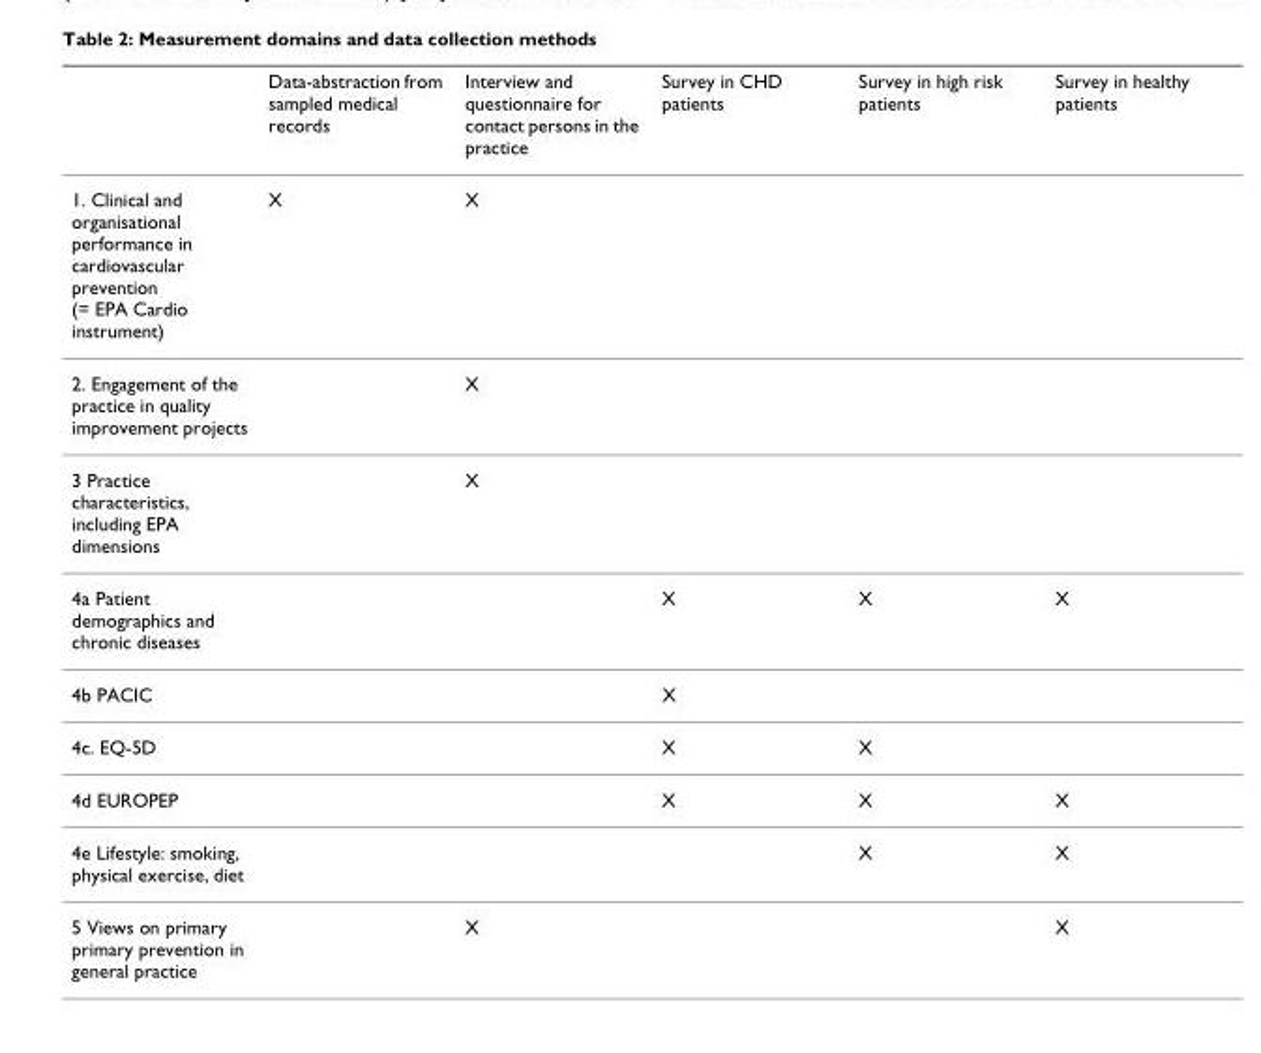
<table><thead><tr><td></td><td>Data-abstraction from sampled medical records</td><td>Interview and questionnaire for contact persons in the practice</td><td>Survey in CHD patients</td><td>Survey in high risk patients</td><td>Survey in healthy patients</td></tr></thead><tbody><tr><td>1. Clinical and organisational performance in cardiovascular prevention (= EPA Cardio instrument)</td><td>X</td><td>X</td><td></td><td></td><td></td></tr><tr><td>2. Engagement of the practice in quality improvement projects</td><td></td><td>X</td><td></td><td></td><td></td></tr><tr><td>3 Practice characteristics, including EPA dimensions</td><td></td><td>X</td><td></td><td></td><td></td></tr><tr><td>4a Patient demographics and chronic diseases</td><td></td><td></td><td>X</td><td>X</td><td>X</td></tr><tr><td>4b PACIC</td><td></td><td></td><td>X</td><td></td><td></td></tr><tr><td>4c. EQ-5D</td><td></td><td></td><td>X</td><td>X</td><td></td></tr><tr><td>4d EUROPEP</td><td></td><td></td><td>X</td><td>X</td><td>X</td></tr><tr><td>4e Lifestyle: smoking, physical exercise, diet</td><td></td><td></td><td></td><td>X</td><td>X</td></tr><tr><td>5 Views on primary primary prevention in general practice</td><td></td><td>X</td><td></td><td></td><td>X</td></tr></tbody></table>